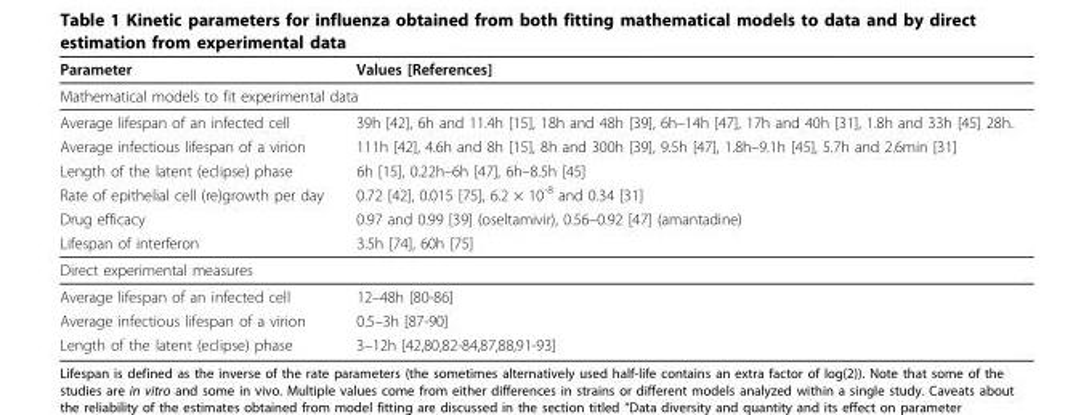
<table><thead><tr><td>Parameter</td><td>Values [References]</td></tr></thead><tbody><tr><td colspan="2">Mathematical models to fit experimental data</td></tr><tr><td>Average lifespan of an infected cell</td><td>39h [42], 6h and 11.4h [15], 18h and 48h [39], 6h–14h [47], 17h and 40h [31], 1.8h and 33h [45] 28h.</td></tr><tr><td>Average infectious lifespan of a virion</td><td>111h [42], 4.6h and 8h [15], 8h and 300h [39], 9.5h [47], 1.8h–9.1h [45], 5.7h and 2.6min [31]</td></tr><tr><td>Length of the latent (eclipse) phase</td><td>6h [15], 0.22h–6h [47], 6h–8.5h [45]</td></tr><tr><td>Rate of epithelial cell (re)growth per day</td><td>0.72 [42], 0.015 [75], 6.2 × 10<sup>-8</sup> and 0.34 [31]</td></tr><tr><td>Drug efficacy</td><td>0.97 and 0.99 [39] (oseltamivir), 0.56–0.92 [47] (amantadine)</td></tr><tr><td>Lifespan of interferon</td><td>3.5h [74], 60h [75]</td></tr><tr><td colspan="2">Direct experimental measures</td></tr><tr><td>Average lifespan of an infected cell</td><td>12–48h [80-86]</td></tr><tr><td>Average infectious lifespan of a virion</td><td>0.5–3h [87-90]</td></tr><tr><td>Length of the latent (eclipse) phase</td><td>3–12h [42,80,82-84,87,88,91-93]</td></tr></tbody></table>